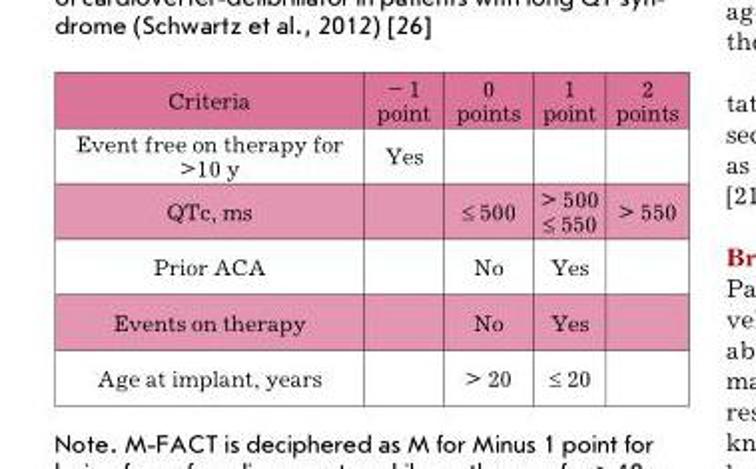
<table><thead><tr><td>Criteria</td><td>– 1 point</td><td>0 points</td><td>1 point</td><td>2 points</td></tr></thead><tbody><tr><td>Event free on therapy for &gt;10 y</td><td>Yes</td><td></td><td></td><td></td></tr><tr><td>QTc, ms</td><td></td><td>≤ 500</td><td>&gt; 500 ≤ 550</td><td>&gt; 550</td></tr><tr><td>Prior ACA</td><td></td><td>No</td><td>Yes</td><td></td></tr><tr><td>Events on therapy</td><td></td><td>No</td><td>Yes</td><td></td></tr><tr><td>Age at implant, years</td><td></td><td>&gt; 20</td><td>≤ 20</td><td></td></tr></tbody></table>